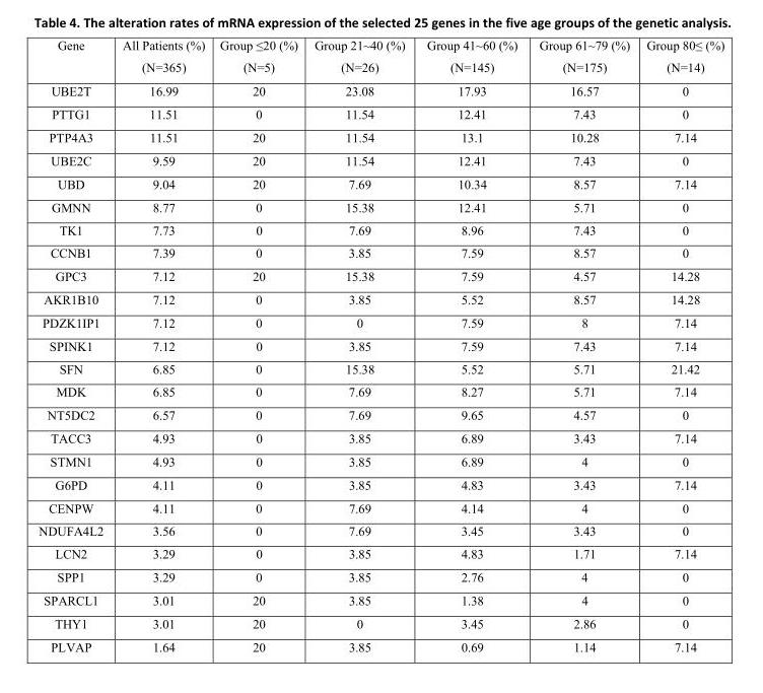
<table><tbody><tr><td>Gene</td><td>All Patients (%) (N=365)</td><td>Group ≤20 (%) (N=5)</td><td>Group 21~40 (%) (N=26)</td><td>Group 41~60 (%) (N=145)</td><td>Group 61~79 (%) (N=175)</td><td>Group 80≤ (%) (N=14)</td></tr><tr><td>UBE2T</td><td>16.99</td><td>20</td><td>23.08</td><td>17.93</td><td>16.57</td><td>0</td></tr><tr><td>PTTG1</td><td>11.51</td><td>0</td><td>11.54</td><td>12.41</td><td>7.43</td><td>0</td></tr><tr><td>PTP4A3</td><td>11.51</td><td>20</td><td>11.54</td><td>13.1</td><td>10.28</td><td>7.14</td></tr><tr><td>UBE2C</td><td>9.59</td><td>20</td><td>11.54</td><td>12.41</td><td>7.43</td><td>0</td></tr><tr><td>UBD</td><td>9.04</td><td>20</td><td>7.69</td><td>10.34</td><td>8.57</td><td>7.14</td></tr><tr><td>GMNN</td><td>8.77</td><td>0</td><td>15.38</td><td>12.41</td><td>5.71</td><td>0</td></tr><tr><td>TK1</td><td>7.73</td><td>0</td><td>7.69</td><td>8.96</td><td>7.43</td><td>0</td></tr><tr><td>CCNB1</td><td>7.39</td><td>0</td><td>3.85</td><td>7.59</td><td>8.57</td><td>0</td></tr><tr><td>GPC3</td><td>7.12</td><td>20</td><td>15.38</td><td>7.59</td><td>4.57</td><td>14.28</td></tr><tr><td>AKR1B10</td><td>7.12</td><td>0</td><td>3.85</td><td>5.52</td><td>8.57</td><td>14.28</td></tr><tr><td>PDZK1IP1</td><td>7.12</td><td>0</td><td>0</td><td>7.59</td><td>8</td><td>7.14</td></tr><tr><td>SPINK1</td><td>7.12</td><td>0</td><td>3.85</td><td>7.59</td><td>7.43</td><td>7.14</td></tr><tr><td>SFN</td><td>6.85</td><td>0</td><td>15.38</td><td>5.52</td><td>5.71</td><td>21.42</td></tr><tr><td>MDK</td><td>6.85</td><td>0</td><td>7.69</td><td>8.27</td><td>5.71</td><td>7.14</td></tr><tr><td>NT5DC2</td><td>6.57</td><td>0</td><td>7.69</td><td>9.65</td><td>4.57</td><td>0</td></tr><tr><td>TACC3</td><td>4.93</td><td>0</td><td>3.85</td><td>6.89</td><td>3.43</td><td>7.14</td></tr><tr><td>STMN1</td><td>4.93</td><td>0</td><td>3.85</td><td>6.89</td><td>4</td><td>0</td></tr><tr><td>G6PD</td><td>4.11</td><td>0</td><td>3.85</td><td>4.83</td><td>3.43</td><td>7.14</td></tr><tr><td>CENPW</td><td>4.11</td><td>0</td><td>7.69</td><td>4.14</td><td>4</td><td>0</td></tr><tr><td>NDUFA4L2</td><td>3.56</td><td>0</td><td>7.69</td><td>3.45</td><td>3.43</td><td>0</td></tr><tr><td>LCN2</td><td>3.29</td><td>0</td><td>3.85</td><td>4.83</td><td>1.71</td><td>7.14</td></tr><tr><td>SPP1</td><td>3.29</td><td>0</td><td>3.85</td><td>2.76</td><td>4</td><td>0</td></tr><tr><td>SPARCL1</td><td>3.01</td><td>20</td><td>3.85</td><td>1.38</td><td>4</td><td>0</td></tr><tr><td>THY1</td><td>3.01</td><td>20</td><td>0</td><td>3.45</td><td>2.86</td><td>0</td></tr><tr><td>PLVAP</td><td>1.64</td><td>20</td><td>3.85</td><td>0.69</td><td>1.14</td><td>7.14</td></tr></tbody></table>